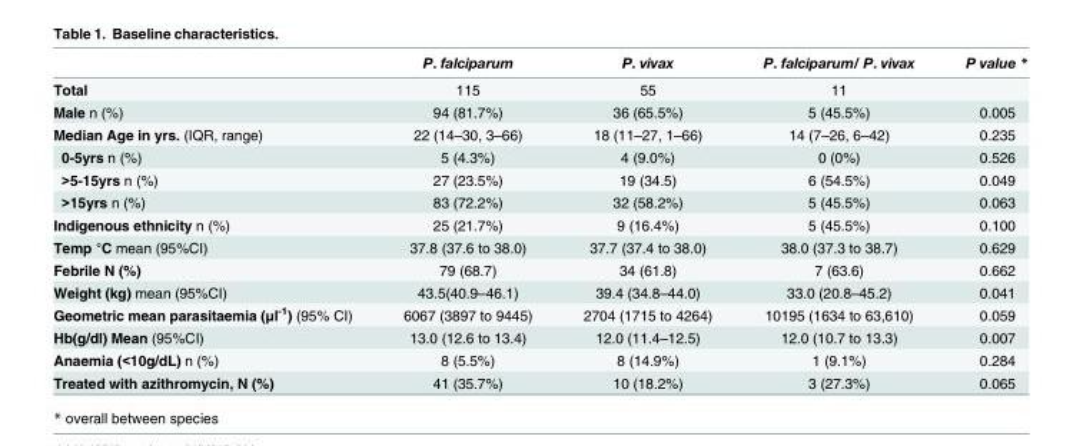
<table><thead><tr><td></td><td>P. falciparum</td><td>P. vivax</td><td>P. falciparum/ P. vivax</td><td>P value *</td></tr></thead><tbody><tr><td>Total</td><td>115</td><td>55</td><td>11</td><td></td></tr><tr><td>Male n (%)</td><td>94 (81.7%)</td><td>36 (65.5%)</td><td>5 (45.5%)</td><td>0.005</td></tr><tr><td>Median Age in yrs. (IQR, range)</td><td>22 (14–30, 3–66)</td><td>18 (11–27, 1–66)</td><td>14 (7–26, 6–42)</td><td>0.235</td></tr><tr><td>0-5yrs n (%)</td><td>5 (4.3%)</td><td>4 (9.0%)</td><td>0 (0%)</td><td>0.526</td></tr><tr><td>&gt;5-15yrs n (%)</td><td>27 (23.5%)</td><td>19 (34.5)</td><td>6 (54.5%)</td><td>0.049</td></tr><tr><td>&gt;15yrs n (%)</td><td>83 (72.2%)</td><td>32 (58.2%)</td><td>5 (45.5%)</td><td>0.063</td></tr><tr><td>Indigenous ethnicity n (%)</td><td>25 (21.7%)</td><td>9 (16.4%)</td><td>5 (45.5%)</td><td>0.100</td></tr><tr><td>Temp °C mean (95%CI)</td><td>37.8 (37.6 to 38.0)</td><td>37.7 (37.4 to 38.0)</td><td>38.0 (37.3 to 38.7)</td><td>0.629</td></tr><tr><td>Febrile N (%)</td><td>79 (68.7)</td><td>34 (61.8)</td><td>7 (63.6)</td><td>0.662</td></tr><tr><td>Weight (kg) mean (95%CI)</td><td>43.5(40.9–46.1)</td><td>39.4 (34.8–44.0)</td><td>33.0 (20.8–45.2)</td><td>0.041</td></tr><tr><td>Geometric mean parasitaemia (μl<sup>-1</sup>) (95% CI)</td><td>6067 (3897 to 9445)</td><td>2704 (1715 to 4264)</td><td>10195 (1634 to 63,610)</td><td>0.059</td></tr><tr><td>Hb(g/dl) Mean (95%CI)</td><td>13.0 (12.6 to 13.4)</td><td>12.0 (11.4–12.5)</td><td>12.0 (10.7 to 13.3)</td><td>0.007</td></tr><tr><td>Anaemia (&lt;10g/dL) n (%)</td><td>8 (5.5%)</td><td>8 (14.9%)</td><td>1 (9.1%)</td><td>0.284</td></tr><tr><td>Treated with azithromycin, N (%)</td><td>41 (35.7%)</td><td>10 (18.2%)</td><td>3 (27.3%)</td><td>0.065</td></tr></tbody></table>